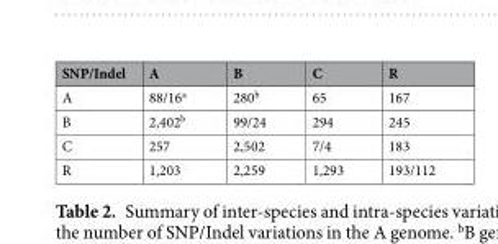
<table><thead><tr><td>SNP/Indel</td><td>A</td><td>B</td><td>C</td><td>R</td></tr></thead><tbody><tr><td>A</td><td>88/16<sup>a</sup></td><td>280<sup>b</sup></td><td>65</td><td>167</td></tr><tr><td>B</td><td>2,402<sup>b</sup></td><td>99/24</td><td>294</td><td>245</td></tr><tr><td>C</td><td>257</td><td>2,502</td><td>7/4</td><td>183</td></tr><tr><td>R</td><td>1,203</td><td>2,259</td><td>1,293</td><td>193/112</td></tr></tbody></table>